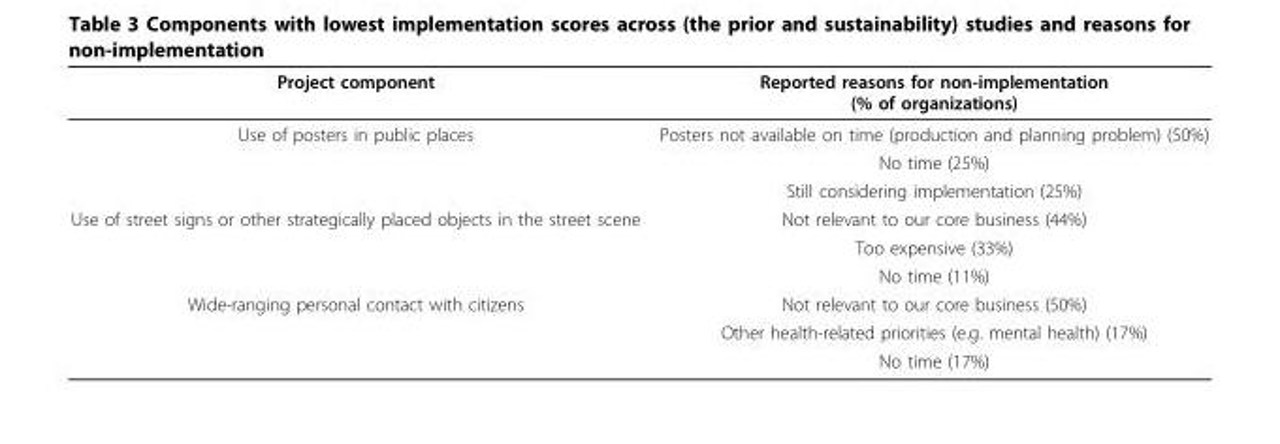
<table><thead><tr><td>Project component</td><td>Reported reasons for non-implementation (% of organizations)</td></tr></thead><tbody><tr><td rowspan="3">Use of posters in public places</td><td>Posters not available on time (production and planning problem) (50%)</td></tr><tr><td>No time (25%)</td></tr><tr><td>Still considering implementation (25%)</td></tr><tr><td rowspan="3">Use of street signs or other strategically placed objects in the street scene</td><td>Not relevant to our core business (44%)</td></tr><tr><td>Too expensive (33%)</td></tr><tr><td>No time (11%)</td></tr><tr><td rowspan="3">Wide-ranging personal contact with citizens</td><td>Not relevant to our core business (50%)</td></tr><tr><td>Other health-related priorities (e.g. mental health) (17%)</td></tr><tr><td>No time (17%)</td></tr></tbody></table>